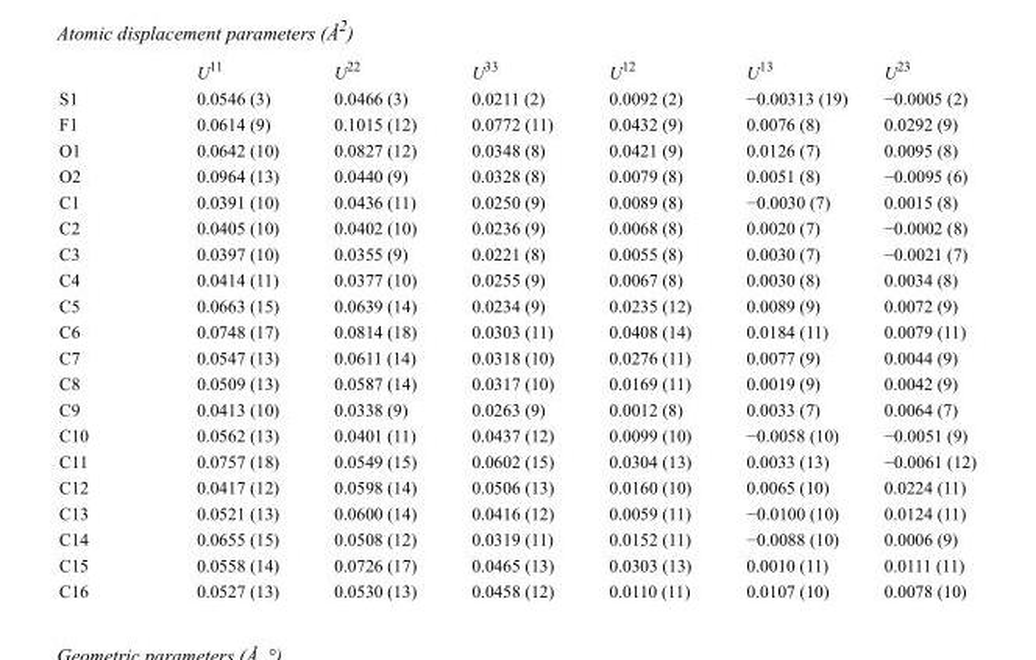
<table><thead><tr><td></td><td>U<sup>11</sup></td><td>U<sup>22</sup></td><td>U<sup>33</sup></td><td>U<sup>12</sup></td><td>U<sup>13</sup></td><td>U<sup>23</sup></td></tr></thead><tbody><tr><td>S1</td><td>0.0546 (3)</td><td>0.0466 (3)</td><td>0.0211 (2)</td><td>0.0092 (2)</td><td>−0.00313 (19)</td><td>−0.0005 (2)</td></tr><tr><td>F1</td><td>0.0614 (9)</td><td>0.1015 (12)</td><td>0.0772 (11)</td><td>0.0432 (9)</td><td>0.0076 (8)</td><td>0.0292 (9)</td></tr><tr><td>O1</td><td>0.0642 (10)</td><td>0.0827 (12)</td><td>0.0348 (8)</td><td>0.0421 (9)</td><td>0.0126 (7)</td><td>0.0095 (8)</td></tr><tr><td>O2</td><td>0.0964 (13)</td><td>0.0440 (9)</td><td>0.0328 (8)</td><td>0.0079 (8)</td><td>0.0051 (8)</td><td>−0.0095 (6)</td></tr><tr><td>C1</td><td>0.0391 (10)</td><td>0.0436 (11)</td><td>0.0250 (9)</td><td>0.0089 (8)</td><td>−0.0030 (7)</td><td>0.0015 (8)</td></tr><tr><td>C2</td><td>0.0405 (10)</td><td>0.0402 (10)</td><td>0.0236 (9)</td><td>0.0068 (8)</td><td>0.0020 (7)</td><td>−0.0002 (8)</td></tr><tr><td>C3</td><td>0.0397 (10)</td><td>0.0355 (9)</td><td>0.0221 (8)</td><td>0.0055 (8)</td><td>0.0030 (7)</td><td>−0.0021 (7)</td></tr><tr><td>C4</td><td>0.0414 (11)</td><td>0.0377 (10)</td><td>0.0255 (9)</td><td>0.0067 (8)</td><td>0.0030 (8)</td><td>0.0034 (8)</td></tr><tr><td>C5</td><td>0.0663 (15)</td><td>0.0639 (14)</td><td>0.0234 (9)</td><td>0.0235 (12)</td><td>0.0089 (9)</td><td>0.0072 (9)</td></tr><tr><td>C6</td><td>0.0748 (17)</td><td>0.0814 (18)</td><td>0.0303 (11)</td><td>0.0408 (14)</td><td>0.0184 (11)</td><td>0.0079 (11)</td></tr><tr><td>C7</td><td>0.0547 (13)</td><td>0.0611 (14)</td><td>0.0318 (10)</td><td>0.0276 (11)</td><td>0.0077 (9)</td><td>0.0044 (9)</td></tr><tr><td>C8</td><td>0.0509 (13)</td><td>0.0587 (14)</td><td>0.0317 (10)</td><td>0.0169 (11)</td><td>0.0019 (9)</td><td>0.0042 (9)</td></tr><tr><td>C9</td><td>0.0413 (10)</td><td>0.0338 (9)</td><td>0.0263 (9)</td><td>0.0012 (8)</td><td>0.0033 (7)</td><td>0.0064 (7)</td></tr><tr><td>C10</td><td>0.0562 (13)</td><td>0.0401 (11)</td><td>0.0437 (12)</td><td>0.0099 (10)</td><td>−0.0058 (10)</td><td>−0.0051 (9)</td></tr><tr><td>C11</td><td>0.0757 (18)</td><td>0.0549 (15)</td><td>0.0602 (15)</td><td>0.0304 (13)</td><td>0.0033 (13)</td><td>−0.0061 (12)</td></tr><tr><td>C12</td><td>0.0417 (12)</td><td>0.0598 (14)</td><td>0.0506 (13)</td><td>0.0160 (10)</td><td>0.0065 (10)</td><td>0.0224 (11)</td></tr><tr><td>C13</td><td>0.0521 (13)</td><td>0.0600 (14)</td><td>0.0416 (12)</td><td>0.0059 (11)</td><td>−0.0100 (10)</td><td>0.0124 (11)</td></tr><tr><td>C14</td><td>0.0655 (15)</td><td>0.0508 (12)</td><td>0.0319 (11)</td><td>0.0152 (11)</td><td>−0.0088 (10)</td><td>0.0006 (9)</td></tr><tr><td>C15</td><td>0.0558 (14)</td><td>0.0726 (17)</td><td>0.0465 (13)</td><td>0.0303 (13)</td><td>0.0010 (11)</td><td>0.0111 (11)</td></tr><tr><td>C16</td><td>0.0527 (13)</td><td>0.0530 (13)</td><td>0.0458 (12)</td><td>0.0110 (11)</td><td>0.0107 (10)</td><td>0.0078 (10)</td></tr></tbody></table>